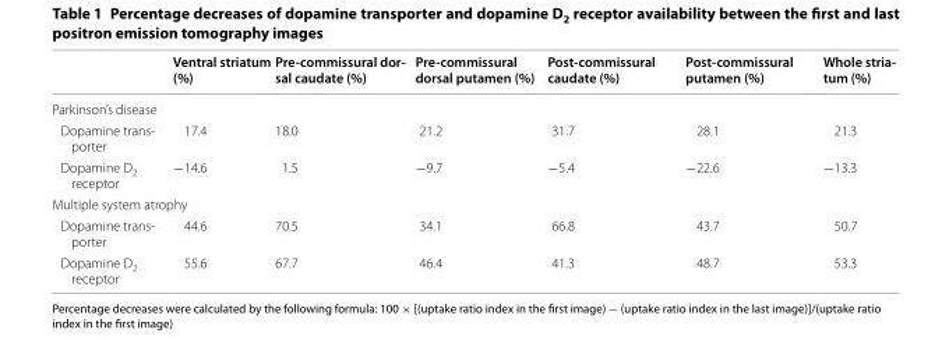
<table><thead><tr><td></td><td>Ventral striatum (%)</td><td>Pre-commissural dor- sal caudate (%)</td><td>Pre-commissural dorsal putamen (%)</td><td>Post-commissural caudate (%)</td><td>Post-commissural putamen (%)</td><td>Whole stria- tum (%)</td></tr></thead><tbody><tr><td colspan="7">Parkinson’s disease</td></tr><tr><td>Dopamine trans- porter</td><td>17.4</td><td>18.0</td><td>21.2</td><td>31.7</td><td>28.1</td><td>21.3</td></tr><tr><td>Dopamine D<sub>2</sub> receptor</td><td>−14.6</td><td>1.5</td><td>−9.7</td><td>−5.4</td><td>−22.6</td><td>−13.3</td></tr><tr><td colspan="7">Multiple system atrophy</td></tr><tr><td>Dopamine trans- porter</td><td>44.6</td><td>70.5</td><td>34.1</td><td>66.8</td><td>43.7</td><td>50.7</td></tr><tr><td>Dopamine D<sub>2</sub> receptor</td><td>55.6</td><td>67.7</td><td>46.4</td><td>41.3</td><td>48.7</td><td>53.3</td></tr></tbody></table>